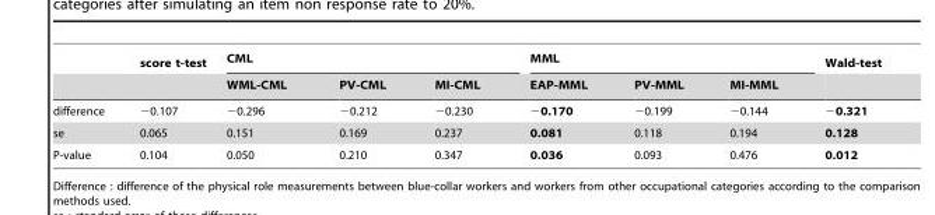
<table><thead><tr><td rowspan="2"></td><td rowspan="2">score t-test</td><td colspan="3">CML</td><td colspan="3">MML</td><td rowspan="2">Wald-test</td></tr><tr><td>WML-CML</td><td>PV-CML</td><td>MI-CML</td><td>EAP-MML</td><td>PV-MML</td><td>MI-MML</td></tr></thead><tbody><tr><td>difference</td><td>−0.107</td><td>−0.296</td><td>−0.212</td><td>−0.230</td><td>−0.170</td><td>−0.199</td><td>−0.144</td><td>−0.321</td></tr><tr><td>se</td><td>0.065</td><td>0.151</td><td>0.169</td><td>0.237</td><td>0.081</td><td>0.118</td><td>0.194</td><td>0.128</td></tr><tr><td>P-value</td><td>0.104</td><td>0.050</td><td>0.210</td><td>0.347</td><td>0.036</td><td>0.093</td><td>0.476</td><td>0.012</td></tr></tbody></table>